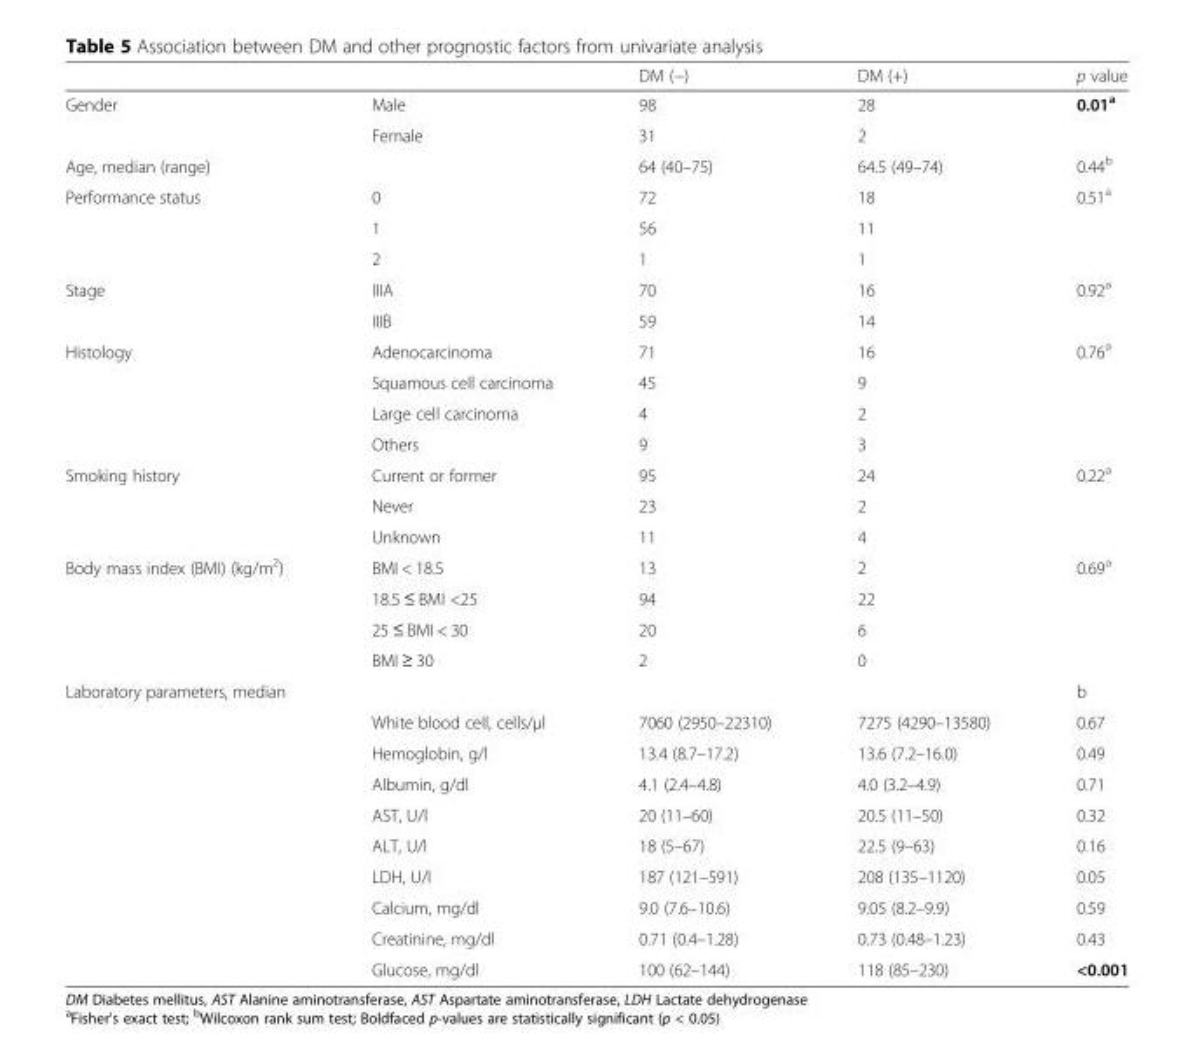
<table><thead><tr><td></td><td></td><td>DM (−)</td><td>DM (+)</td><td>p value</td></tr></thead><tbody><tr><td rowspan="2">Gender</td><td>Male</td><td>98</td><td>28</td><td>0.01<sup>a</sup></td></tr><tr><td>Female</td><td>31</td><td>2</td><td></td></tr><tr><td>Age, median (range)</td><td></td><td>64 (40–75)</td><td>64.5 (49–74)</td><td>0.44<sup>b</sup></td></tr><tr><td rowspan="3">Performance status</td><td>0</td><td>72</td><td>18</td><td>0.51<sup>a</sup></td></tr><tr><td>1</td><td>56</td><td>11</td><td></td></tr><tr><td>2</td><td>1</td><td>1</td><td></td></tr><tr><td rowspan="2">Stage</td><td>IIIA</td><td>70</td><td>16</td><td>0.92<sup>a</sup></td></tr><tr><td>IIIB</td><td>59</td><td>14</td><td></td></tr><tr><td rowspan="4">Histology</td><td>Adenocarcinoma</td><td>71</td><td>16</td><td>0.76<sup>a</sup></td></tr><tr><td>Squamous cell carcinoma</td><td>45</td><td>9</td><td></td></tr><tr><td>Large cell carcinoma</td><td>4</td><td>2</td><td></td></tr><tr><td>Others</td><td>9</td><td>3</td><td></td></tr><tr><td rowspan="3">Smoking history</td><td>Current or former</td><td>95</td><td>24</td><td>0.22<sup>a</sup></td></tr><tr><td>Never</td><td>23</td><td>2</td><td></td></tr><tr><td>Unknown</td><td>11</td><td>4</td><td></td></tr><tr><td rowspan="4">Body mass index (BMI) (kg/m<sup>2</sup>)</td><td>BMI &lt; 18.5</td><td>13</td><td>2</td><td>0.69<sup>a</sup></td></tr><tr><td>18.5 ≤ BMI &lt;25</td><td>94</td><td>22</td><td></td></tr><tr><td>25 ≤ BMI &lt; 30</td><td>20</td><td>6</td><td></td></tr><tr><td>BMI ≥ 30</td><td>2</td><td>0</td><td></td></tr><tr><td rowspan="10">Laboratory parameters, median</td><td></td><td></td><td></td><td>b</td></tr><tr><td>White blood cell, cells/μl</td><td>7060 (2950–22310)</td><td>7275 (4290–13580)</td><td>0.67</td></tr><tr><td>Hemoglobin, g/l</td><td>13.4 (8.7–17.2)</td><td>13.6 (7.2–16.0)</td><td>0.49</td></tr><tr><td>Albumin, g/dl</td><td>4.1 (2.4–4.8)</td><td>4.0 (3.2–4.9)</td><td>0.71</td></tr><tr><td>AST, U/l</td><td>20 (11–60)</td><td>20.5 (11–50)</td><td>0.32</td></tr><tr><td>ALT, U/l</td><td>18 (5–67)</td><td>22.5 (9–63)</td><td>0.16</td></tr><tr><td>LDH, U/l</td><td>187 (121–591)</td><td>208 (135–1120)</td><td>0.05</td></tr><tr><td>Calcium, mg/dl</td><td>9.0 (7.6–10.6)</td><td>9.05 (8.2–9.9)</td><td>0.59</td></tr><tr><td>Creatinine, mg/dl</td><td>0.71 (0.4–1.28)</td><td>0.73 (0.48–1.23)</td><td>0.43</td></tr><tr><td>Glucose, mg/dl</td><td>100 (62–144)</td><td>118 (85–230)</td><td>&lt;0.001</td></tr></tbody></table>